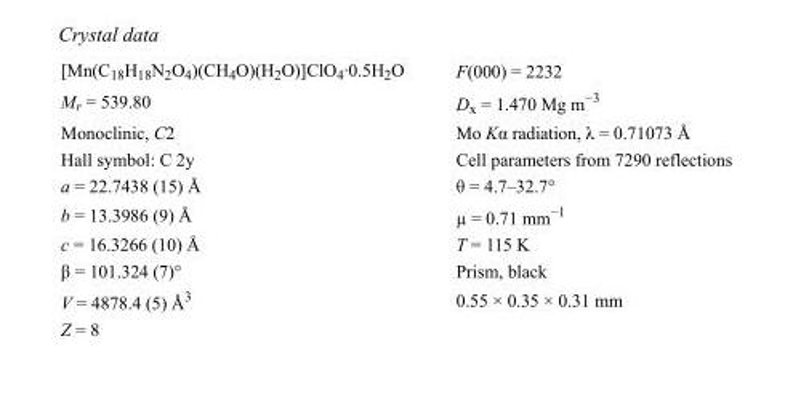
<table><tbody><tr><td>[Mn(C<sub>18</sub>H<sub>18</sub>N<sub>2</sub>O<sub>4</sub>)(CH<sub>4</sub>O)(H<sub>2</sub>O)]ClO<sub>4</sub>·0.5H<sub>2</sub>O</td><td>F(000) = 2232</td></tr><tr><td>M<sub>r</sub> = 539.80</td><td>D<sub>x</sub> = 1.470 Mg m<sup>−3</sup></td></tr><tr><td>Monoclinic, C2</td><td>Mo Kα radiation, λ = 0.71073 Å</td></tr><tr><td>Hall symbol: C 2y</td><td>Cell parameters from 7290 reflections</td></tr><tr><td>a = 22.7438 (15) Å</td><td>θ = 4.7–32.7°</td></tr><tr><td>b = 13.3986 (9) Å</td><td>µ = 0.71 mm<sup>−1</sup></td></tr><tr><td>c = 16.3266 (10) Å</td><td>T = 115 K</td></tr><tr><td>β = 101.324 (7)°</td><td>Prism, black</td></tr><tr><td>V = 4878.4 (5) Å<sup>3</sup></td><td>0.55 × 0.35 × 0.31 mm</td></tr><tr><td>Z = 8</td><td></td></tr></tbody></table>